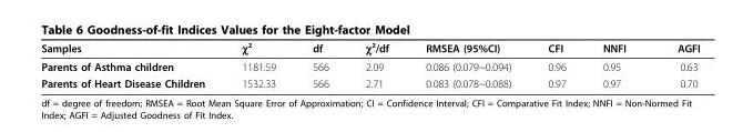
<table><thead><tr><td>Samples</td><td>χ²</td><td>df</td><td>χ²/df</td><td>RMSEA (95%CI)</td><td>CFI</td><td>NNFI</td><td>AGFI</td></tr></thead><tbody><tr><td>Parents of Asthma children</td><td>1181.59</td><td>566</td><td>2.09</td><td>0.086 (0.079~0.094)</td><td>0.96</td><td>0.95</td><td>0.63</td></tr><tr><td>Parents of Heart Disease Children</td><td>1532.33</td><td>566</td><td>2.71</td><td>0.083 (0.078~0.088)</td><td>0.97</td><td>0.97</td><td>0.70</td></tr></tbody></table>